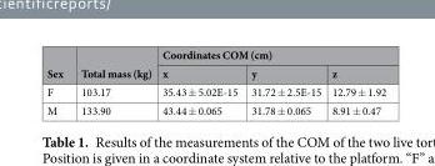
<table><thead><tr><td rowspan="2">Sex</td><td rowspan="2">Total mass (kg)</td><td colspan="3">Coordinates COM (cm)</td></tr><tr><td>x</td><td>y</td><td>z</td></tr></thead><tbody><tr><td>F</td><td>103.17</td><td>35.43 ± 5.02E-15</td><td>31.72 ± 2.5E-15</td><td>12.79 ± 1.92</td></tr><tr><td>M</td><td>133.90</td><td>43.44 ± 0.065</td><td>31.78 ± 0.065</td><td>8.91 ± 0.47</td></tr></tbody></table>